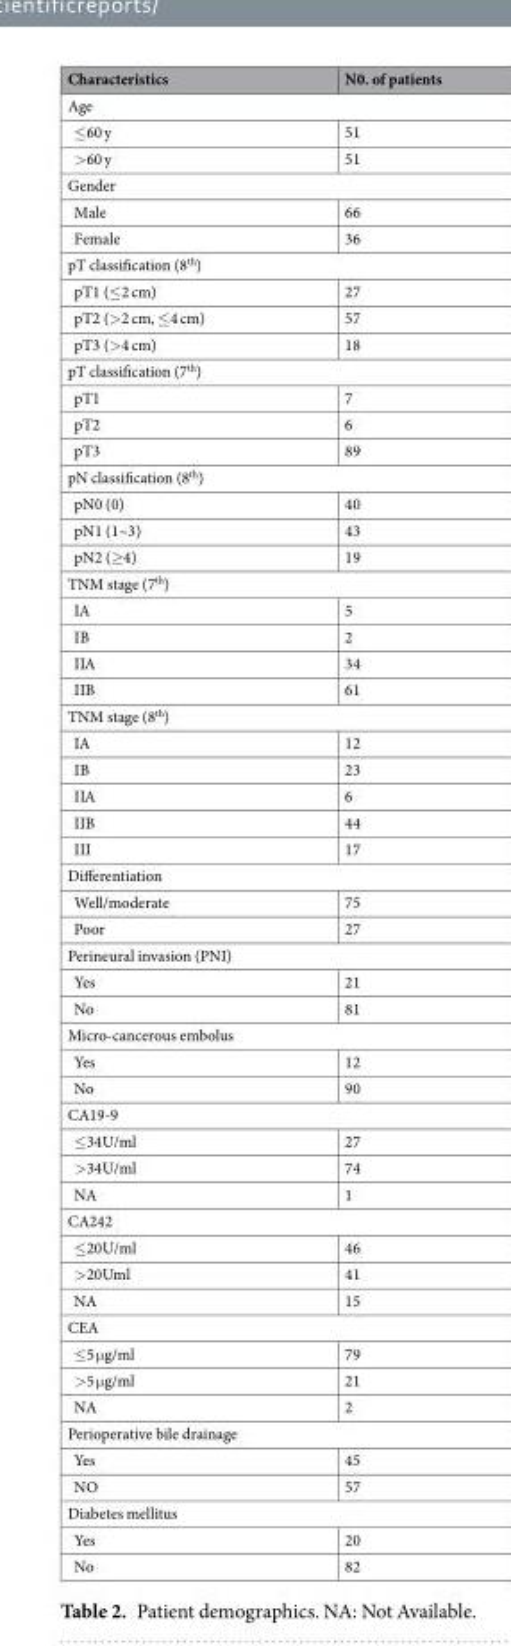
<table><thead><tr><td>Characteristics</td><td>N0. of patients</td></tr></thead><tbody><tr><td colspan="2">Age</td></tr><tr><td>≤60 y</td><td>51</td></tr><tr><td>&gt;60 y</td><td>51</td></tr><tr><td colspan="2">Gender</td></tr><tr><td>Male</td><td>66</td></tr><tr><td>Female</td><td>36</td></tr><tr><td colspan="2">pT classification (8<sup>th</sup>)</td></tr><tr><td>pT1 (≤2 cm)</td><td>27</td></tr><tr><td>pT2 (&gt;2 cm, ≤4 cm)</td><td>57</td></tr><tr><td>pT3 (&gt;4 cm)</td><td>18</td></tr><tr><td colspan="2">pT classification (7<sup>th</sup>)</td></tr><tr><td>pT1</td><td>7</td></tr><tr><td>pT2</td><td>6</td></tr><tr><td>pT3</td><td>89</td></tr><tr><td colspan="2">pN classification (8<sup>th</sup>)</td></tr><tr><td>pN0 (0)</td><td>40</td></tr><tr><td>pN1 (1~3)</td><td>43</td></tr><tr><td>pN2 (≥4)</td><td>19</td></tr><tr><td colspan="2">TNM stage (7<sup>th</sup>)</td></tr><tr><td>IA</td><td>5</td></tr><tr><td>IB</td><td>2</td></tr><tr><td>IIA</td><td>34</td></tr><tr><td>IIB</td><td>61</td></tr><tr><td colspan="2">TNM stage (8<sup>th</sup>)</td></tr><tr><td>IA</td><td>12</td></tr><tr><td>IB</td><td>23</td></tr><tr><td>IIA</td><td>6</td></tr><tr><td>IIB</td><td>44</td></tr><tr><td>III</td><td>17</td></tr><tr><td colspan="2">Differentiation</td></tr><tr><td>Well/moderate</td><td>75</td></tr><tr><td>Poor</td><td>27</td></tr><tr><td colspan="2">Perineural invasion (PNI)</td></tr><tr><td>Yes</td><td>21</td></tr><tr><td>No</td><td>81</td></tr><tr><td colspan="2">Micro-cancerous embolus</td></tr><tr><td>Yes</td><td>12</td></tr><tr><td>No</td><td>90</td></tr><tr><td colspan="2">CA19-9</td></tr><tr><td>≤34U/ml</td><td>27</td></tr><tr><td>&gt;34U/ml</td><td>74</td></tr><tr><td>NA</td><td>1</td></tr><tr><td colspan="2">CA242</td></tr><tr><td>≤20U/ml</td><td>46</td></tr><tr><td>&gt;20Uml</td><td>41</td></tr><tr><td>NA</td><td>15</td></tr><tr><td colspan="2">CEA</td></tr><tr><td>≤5 μg/ml</td><td>79</td></tr><tr><td>&gt;5 μg/ml</td><td>21</td></tr><tr><td>NA</td><td>2</td></tr><tr><td colspan="2">Perioperative bile drainage</td></tr><tr><td>Yes</td><td>45</td></tr><tr><td>NO</td><td>57</td></tr><tr><td colspan="2">Diabetes mellitus</td></tr><tr><td>Yes</td><td>20</td></tr><tr><td>No</td><td>82</td></tr></tbody></table>